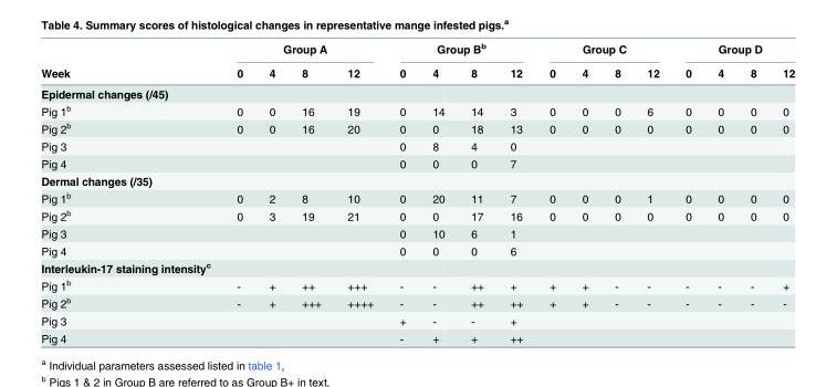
<table><thead><tr><td rowspan="2">Week</td><td colspan="4">Group A</td><td colspan="4">Group B<sup>b</sup></td><td colspan="4">Group C</td><td colspan="4">Group D</td></tr><tr><td>0</td><td>4</td><td>8</td><td>12</td><td>0</td><td>4</td><td>8</td><td>12</td><td>0</td><td>4</td><td>8</td><td>12</td><td>0</td><td>4</td><td>8</td><td>12</td></tr></thead><tbody><tr><td colspan="17">Epidermal changes (/45)</td></tr><tr><td>Pig 1<sup>b</sup></td><td>0</td><td>0</td><td>16</td><td>19</td><td>0</td><td>14</td><td>14</td><td>3</td><td>0</td><td>0</td><td>0</td><td>6</td><td>0</td><td>0</td><td>0</td><td>0</td></tr><tr><td>Pig 2<sup>b</sup></td><td>0</td><td>0</td><td>16</td><td>20</td><td>0</td><td>0</td><td>18</td><td>13</td><td>0</td><td>0</td><td>0</td><td>0</td><td>0</td><td>0</td><td>0</td><td>0</td></tr><tr><td>Pig 3</td><td></td><td></td><td></td><td></td><td>0</td><td>8</td><td>4</td><td>0</td><td></td><td></td><td></td><td></td><td></td><td></td><td></td><td></td></tr><tr><td>Pig 4</td><td></td><td></td><td></td><td></td><td>0</td><td>0</td><td>0</td><td>7</td><td></td><td></td><td></td><td></td><td></td><td></td><td></td><td></td></tr><tr><td colspan="17">Dermal changes (/35)</td></tr><tr><td>Pig 1<sup>b</sup></td><td>0</td><td>2</td><td>8</td><td>10</td><td>0</td><td>20</td><td>11</td><td>7</td><td>0</td><td>0</td><td>0</td><td>1</td><td>0</td><td>0</td><td>0</td><td>0</td></tr><tr><td>Pig 2<sup>b</sup></td><td>0</td><td>3</td><td>19</td><td>21</td><td>0</td><td>0</td><td>17</td><td>16</td><td>0</td><td>0</td><td>0</td><td>0</td><td>0</td><td>0</td><td>0</td><td>0</td></tr><tr><td>Pig 3</td><td></td><td></td><td></td><td></td><td>0</td><td>10</td><td>6</td><td>1</td><td></td><td></td><td></td><td></td><td></td><td></td><td></td><td></td></tr><tr><td>Pig 4</td><td></td><td></td><td></td><td></td><td>0</td><td>0</td><td>0</td><td>6</td><td></td><td></td><td></td><td></td><td></td><td></td><td></td><td></td></tr><tr><td colspan="17">Interleukin-17 staining intensity<sup>c</sup></td></tr><tr><td>Pig 1<sup>b</sup></td><td>-</td><td>+</td><td>++</td><td>+++</td><td>-</td><td>-</td><td>++</td><td>+</td><td>+</td><td>+</td><td>-</td><td>-</td><td>-</td><td>-</td><td>-</td><td>+</td></tr><tr><td>Pig 2<sup>b</sup></td><td>-</td><td>+</td><td>+++</td><td>++++</td><td>-</td><td>-</td><td>++</td><td>++</td><td>+</td><td>+</td><td>-</td><td>-</td><td>-</td><td>-</td><td>-</td><td>-</td></tr><tr><td>Pig 3</td><td></td><td></td><td></td><td></td><td>+</td><td>-</td><td>-</td><td>+</td><td></td><td></td><td></td><td></td><td></td><td></td><td></td><td></td></tr><tr><td>Pig 4</td><td></td><td></td><td></td><td></td><td>-</td><td>+</td><td>+</td><td>++</td><td></td><td></td><td></td><td></td><td></td><td></td><td></td><td></td></tr></tbody></table>